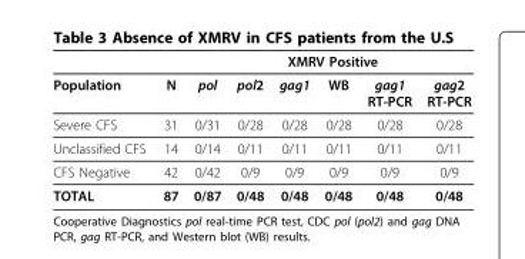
<table><thead><tr><td rowspan="2">Population</td><td rowspan="2">N</td><td colspan="6">XMRV Positive</td></tr><tr><td>pol</td><td>pol2</td><td>gag1</td><td>WB</td><td>gag1 RT-PCR</td><td>gag2 RT-PCR</td></tr></thead><tbody><tr><td>Severe CFS</td><td>31</td><td>0/31</td><td>0/28</td><td>0/28</td><td>0/28</td><td>0/28</td><td>0/28</td></tr><tr><td>Unclassified CFS</td><td>14</td><td>0/14</td><td>0/11</td><td>0/11</td><td>0/11</td><td>0/11</td><td>0/11</td></tr><tr><td>CFS Negative</td><td>42</td><td>0/42</td><td>0/9</td><td>0/9</td><td>0/9</td><td>0/9</td><td>0/9</td></tr><tr><td>TOTAL</td><td>87</td><td>0/87</td><td>0/48</td><td>0/48</td><td>0/48</td><td>0/48</td><td>0/48</td></tr></tbody></table>